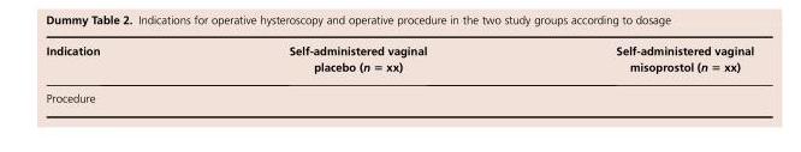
<table><thead><tr><td>Indication</td><td>Self-administered vaginal placebo (n = xx)</td><td>Self-administered vaginal misoprostol (n = xx)</td></tr></thead><tbody><tr><td>Procedure</td><td></td><td></td></tr></tbody></table>